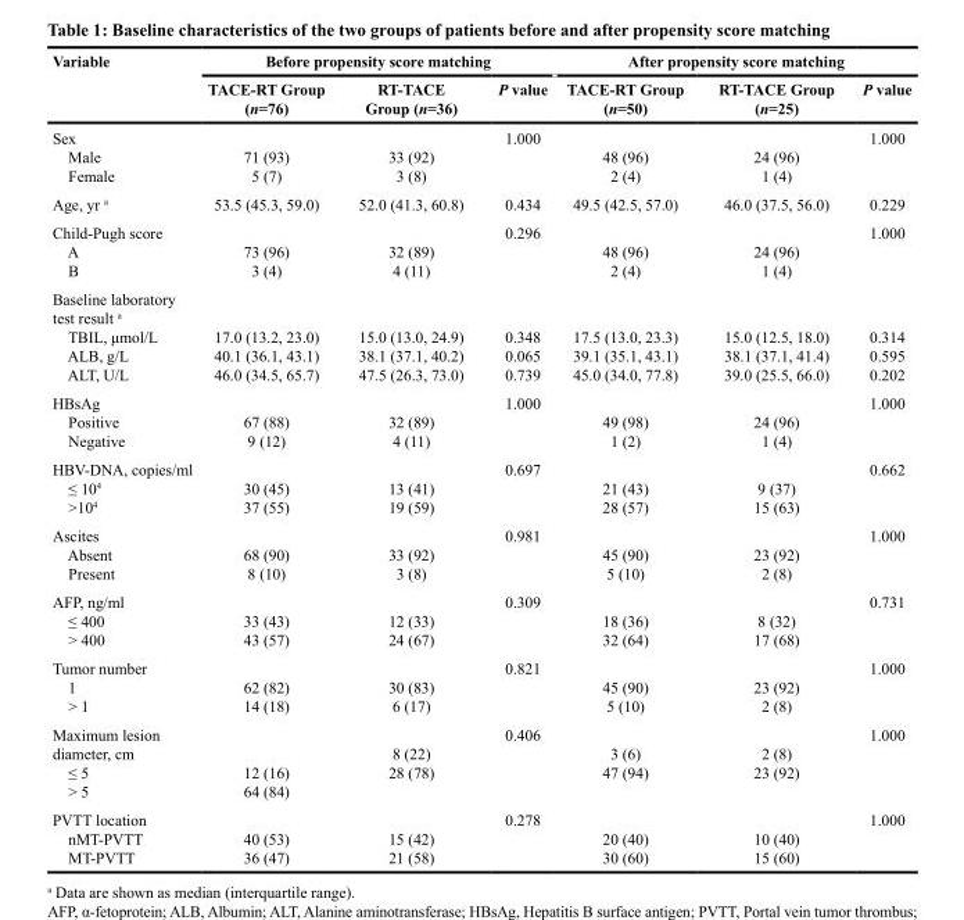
<table><thead><tr><td rowspan="2">Variable</td><td colspan="3">Before propensity score matching</td><td colspan="3">After propensity score matching</td></tr><tr><td>TACE-RT Group (n=76)</td><td>RT-TACE Group (n=36)</td><td>P value</td><td>TACE-RT Group (n=50)</td><td>RT-TACE Group (n=25)</td><td>P value</td></tr></thead><tbody><tr><td>Sex Male Female</td><td>71 (93) 5 (7)</td><td>33 (92) 3 (8)</td><td>1.000</td><td>48 (96) 2 (4)</td><td>24 (96) 1 (4)</td><td>1.000</td></tr><tr><td>Age, yr <sup>a</sup></td><td>53.5 (45.3, 59.0)</td><td>52.0 (41.3, 60.8)</td><td>0.434</td><td>49.5 (42.5, 57.0)</td><td>46.0 (37.5, 56.0)</td><td>0.229</td></tr><tr><td>Child-Pugh score A B</td><td>73 (96) 3 (4)</td><td>32 (89) 4 (11)</td><td>0.296</td><td>48 (96) 2 (4)</td><td>24 (96) 1 (4)</td><td>1.000</td></tr><tr><td>Baseline laboratory test result <sup>a</sup> TBIL, μmol/L ALB, g/L ALT, U/L</td><td>17.0 (13.2, 23.0) 40.1 (36.1, 43.1) 46.0 (34.5, 65.7)</td><td>15.0 (13.0, 24.9) 38.1 (37.1, 40.2) 47.5 (26.3, 73.0)</td><td>0.348 0.065 0.739</td><td>17.5 (13.0, 23.3) 39.1 (35.1, 43.1) 45.0 (34.0, 77.8)</td><td>15.0 (12.5, 18.0) 38.1 (37.1, 41.4) 39.0 (25.5, 66.0)</td><td>0.314 0.595 0.202</td></tr><tr><td>HBsAg Positive Negative</td><td>67 (88) 9 (12)</td><td>32 (89) 4 (11)</td><td>1.000</td><td>49 (98) 1 (2)</td><td>24 (96) 1 (4)</td><td>1.000</td></tr><tr><td>HBV-DNA, copies/ml ≤ 10<sup>4</sup> &gt;10<sup>4</sup></td><td>30 (45) 37 (55)</td><td>13 (41) 19 (59)</td><td>0.697</td><td>21 (43) 28 (57)</td><td>9 (37) 15 (63)</td><td>0.662</td></tr><tr><td>Ascites Absent Present</td><td>68 (90) 8 (10)</td><td>33 (92) 3 (8)</td><td>0.981</td><td>45 (90) 5 (10)</td><td>23 (92) 2 (8)</td><td>1.000</td></tr><tr><td>AFP, ng/ml ≤ 400 &gt; 400</td><td>33 (43) 43 (57)</td><td>12 (33) 24 (67)</td><td>0.309</td><td>18 (36) 32 (64)</td><td>8 (32) 17 (68)</td><td>0.731</td></tr><tr><td>Tumor number 1 &gt; 1</td><td>62 (82) 14 (18)</td><td>30 (83) 6 (17)</td><td>0.821</td><td>45 (90) 5 (10)</td><td>23 (92) 2 (8)</td><td>1.000</td></tr><tr><td>Maximum lesion diameter, cm ≤ 5 &gt; 5</td><td>12 (16) 64 (84)</td><td>8 (22) 28 (78)</td><td>0.406</td><td>3 (6) 47 (94)</td><td>2 (8) 23 (92)</td><td>1.000</td></tr><tr><td>PVTT location nMT-PVTT MT-PVTT</td><td>40 (53) 36 (47)</td><td>15 (42) 21 (58)</td><td>0.278</td><td>20 (40) 30 (60)</td><td>10 (40) 15 (60)</td><td>1.000</td></tr></tbody></table>